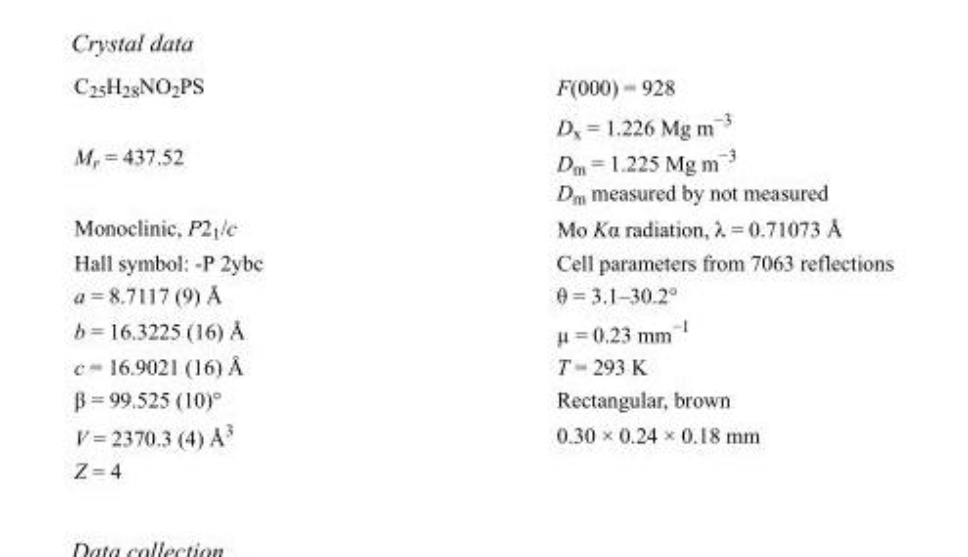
<table><tbody><tr><td>C<sub>25</sub>H<sub>28</sub>NO<sub>2</sub>PS</td><td>F(000) = 928</td></tr><tr><td>M<sub>r</sub> = 437.52</td><td>D<sub>x</sub> = 1.226 Mg m<sup>−3</sup> D<sub>m</sub> = 1.225 Mg m<sup>−3</sup> D<sub>m</sub> measured by not measured</td></tr><tr><td>Monoclinic, P2<sub>1</sub>/c</td><td>Mo Kα radiation, λ = 0.71073 Å</td></tr><tr><td>Hall symbol: -P 2ybc</td><td>Cell parameters from 7063 reflections</td></tr><tr><td>a = 8.7117 (9) Å</td><td>θ = 3.1–30.2°</td></tr><tr><td>b = 16.3225 (16) Å</td><td>µ = 0.23 mm<sup>−1</sup></td></tr><tr><td>c = 16.9021 (16) Å</td><td>T = 293 K</td></tr><tr><td>β = 99.525 (10)°</td><td>Rectangular, brown</td></tr><tr><td>V = 2370.3 (4) Å<sup>3</sup></td><td>0.30 × 0.24 × 0.18 mm</td></tr><tr><td>Z = 4</td><td></td></tr></tbody></table>